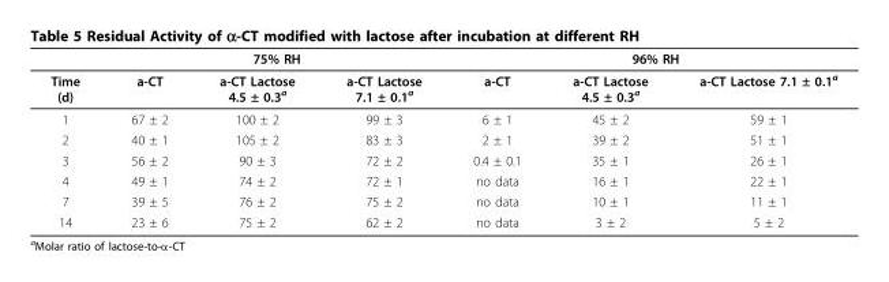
<table><thead><tr><td rowspan="2">Time (d)</td><td colspan="3">75% RH</td><td colspan="3">96% RH</td></tr><tr><td>a-CT</td><td>a-CT Lactose 4.5 ± 0.3<sup>a</sup></td><td>a-CT Lactose 7.1 ± 0.1<sup>a</sup></td><td>a-CT</td><td>a-CT Lactose 4.5 ± 0.3<sup>a</sup></td><td>a-CT Lactose 7.1 ± 0.1<sup>a</sup></td></tr></thead><tbody><tr><td>1</td><td>67 ± 2</td><td>100 ± 2</td><td>99 ± 3</td><td>6 ± 1</td><td>45 ± 2</td><td>59 ± 1</td></tr><tr><td>2</td><td>40 ± 1</td><td>105 ± 2</td><td>83 ± 3</td><td>2 ± 1</td><td>39 ± 2</td><td>51 ± 1</td></tr><tr><td>3</td><td>56 ± 2</td><td>90 ± 3</td><td>72 ± 2</td><td>0.4 ± 0.1</td><td>35 ± 1</td><td>26 ± 1</td></tr><tr><td>4</td><td>49 ± 1</td><td>74 ± 2</td><td>72 ± 1</td><td>no data</td><td>16 ± 1</td><td>22 ± 1</td></tr><tr><td>7</td><td>39 ± 5</td><td>76 ± 2</td><td>75 ± 2</td><td>no data</td><td>10 ± 1</td><td>11 ± 1</td></tr><tr><td>14</td><td>23 ± 6</td><td>75 ± 2</td><td>62 ± 2</td><td>no data</td><td>3 ± 2</td><td>5 ± 2</td></tr></tbody></table>